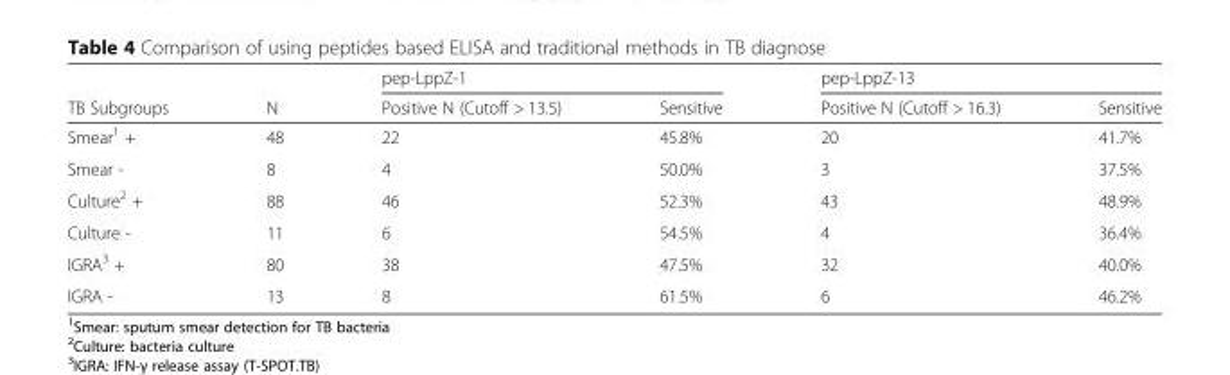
<table><thead><tr><td rowspan="2">TB Subgroups</td><td rowspan="2">N</td><td colspan="2">pep-LppZ-1</td><td colspan="2">pep-LppZ-13</td></tr><tr><td>Positive N (Cutoff &gt; 13.5)</td><td>Sensitive</td><td>Positive N (Cutoff &gt; 16.3)</td><td>Sensitive</td></tr></thead><tbody><tr><td>Smear<sup>1</sup> +</td><td>48</td><td>22</td><td>45.8%</td><td>20</td><td>41.7%</td></tr><tr><td>Smear -</td><td>8</td><td>4</td><td>50.0%</td><td>3</td><td>37.5%</td></tr><tr><td>Culture<sup>2</sup> +</td><td>88</td><td>46</td><td>52.3%</td><td>43</td><td>48.9%</td></tr><tr><td>Culture -</td><td>11</td><td>6</td><td>54.5%</td><td>4</td><td>36.4%</td></tr><tr><td>IGRA<sup>3</sup> +</td><td>80</td><td>38</td><td>47.5%</td><td>32</td><td>40.0%</td></tr><tr><td>IGRA -</td><td>13</td><td>8</td><td>61.5%</td><td>6</td><td>46.2%</td></tr></tbody></table>